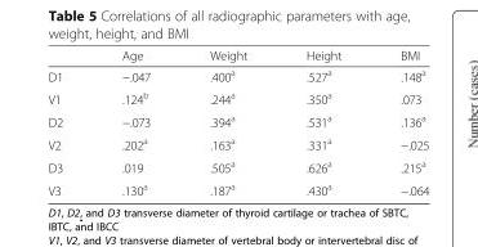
<table><thead><tr><td></td><td>Age</td><td>Weight</td><td>Height</td><td>BMI</td></tr></thead><tbody><tr><td>D1</td><td>−.047</td><td>.400<sup>a</sup></td><td>.527<sup>a</sup></td><td>.148<sup>a</sup></td></tr><tr><td>V1</td><td>.124<sup>b</sup></td><td>.244<sup>a</sup></td><td>.350<sup>a</sup></td><td>.073</td></tr><tr><td>D2</td><td>−.073</td><td>.394<sup>a</sup></td><td>.531<sup>a</sup></td><td>.136<sup>a</sup></td></tr><tr><td>V2</td><td>.202<sup>a</sup></td><td>.163<sup>a</sup></td><td>.331<sup>a</sup></td><td>−.025</td></tr><tr><td>D3</td><td>.019</td><td>.505<sup>a</sup></td><td>.626<sup>a</sup></td><td>.215<sup>a</sup></td></tr><tr><td>V3</td><td>.130<sup>a</sup></td><td>.187<sup>a</sup></td><td>.430<sup>a</sup></td><td>−.064</td></tr></tbody></table>